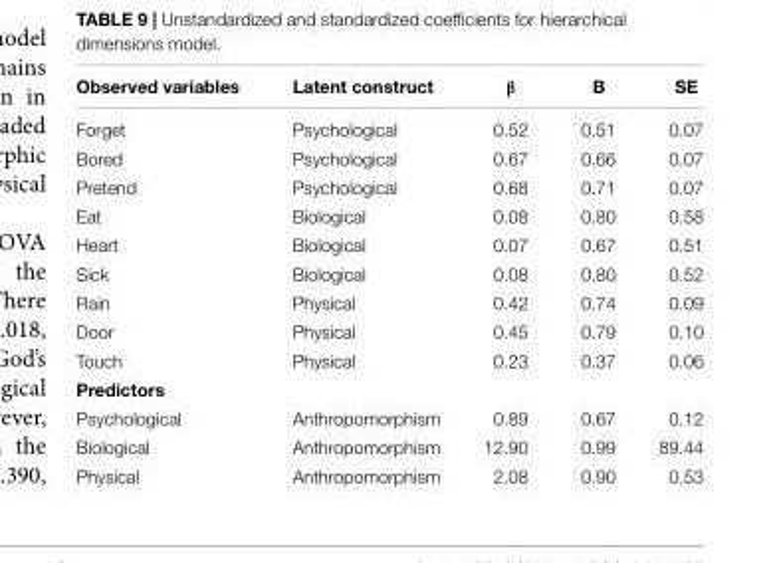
<table><thead><tr><td>Observed variables</td><td>Latent construct</td><td>β</td><td>B</td><td>SE</td></tr></thead><tbody><tr><td>Forget</td><td>Psychological</td><td>0.52</td><td>0.51</td><td>0.07</td></tr><tr><td>Bored</td><td>Psychological</td><td>0.67</td><td>0.66</td><td>0.07</td></tr><tr><td>Pretend</td><td>Psychological</td><td>0.68</td><td>0.71</td><td>0.07</td></tr><tr><td>Eat</td><td>Biological</td><td>0.08</td><td>0.80</td><td>0.58</td></tr><tr><td>Heart</td><td>Biological</td><td>0.07</td><td>0.67</td><td>0.51</td></tr><tr><td>Sick</td><td>Biological</td><td>0.08</td><td>0.80</td><td>0.52</td></tr><tr><td>Rain</td><td>Physical</td><td>0.42</td><td>0.74</td><td>0.09</td></tr><tr><td>Door</td><td>Physical</td><td>0.45</td><td>0.79</td><td>0.10</td></tr><tr><td>Touch</td><td>Physical</td><td>0.23</td><td>0.37</td><td>0.06</td></tr><tr><td colspan="5">Predictors</td></tr><tr><td>Psychological</td><td>Anthropomorphism</td><td>0.89</td><td>0.67</td><td>0.12</td></tr><tr><td>Biological</td><td>Anthropomorphism</td><td>12.90</td><td>0.99</td><td>89.44</td></tr><tr><td>Physical</td><td>Anthropomorphism</td><td>2.08</td><td>0.90</td><td>0.53</td></tr></tbody></table>